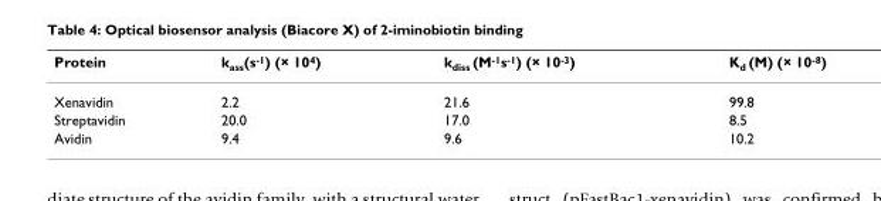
<table><thead><tr><td>Protein</td><td>kass(s-1) (× 104)</td><td>kdiss (M-1s-1) (× 10-3)</td><td>Kd (M) (× 10-8)</td></tr></thead><tbody><tr><td>Xenavidin</td><td>2.2</td><td>21.6</td><td>99.8</td></tr><tr><td>Streptavidin</td><td>20.0</td><td>17.0</td><td>8.5</td></tr><tr><td>Avidin</td><td>9.4</td><td>9.6</td><td>10.2</td></tr></tbody></table>